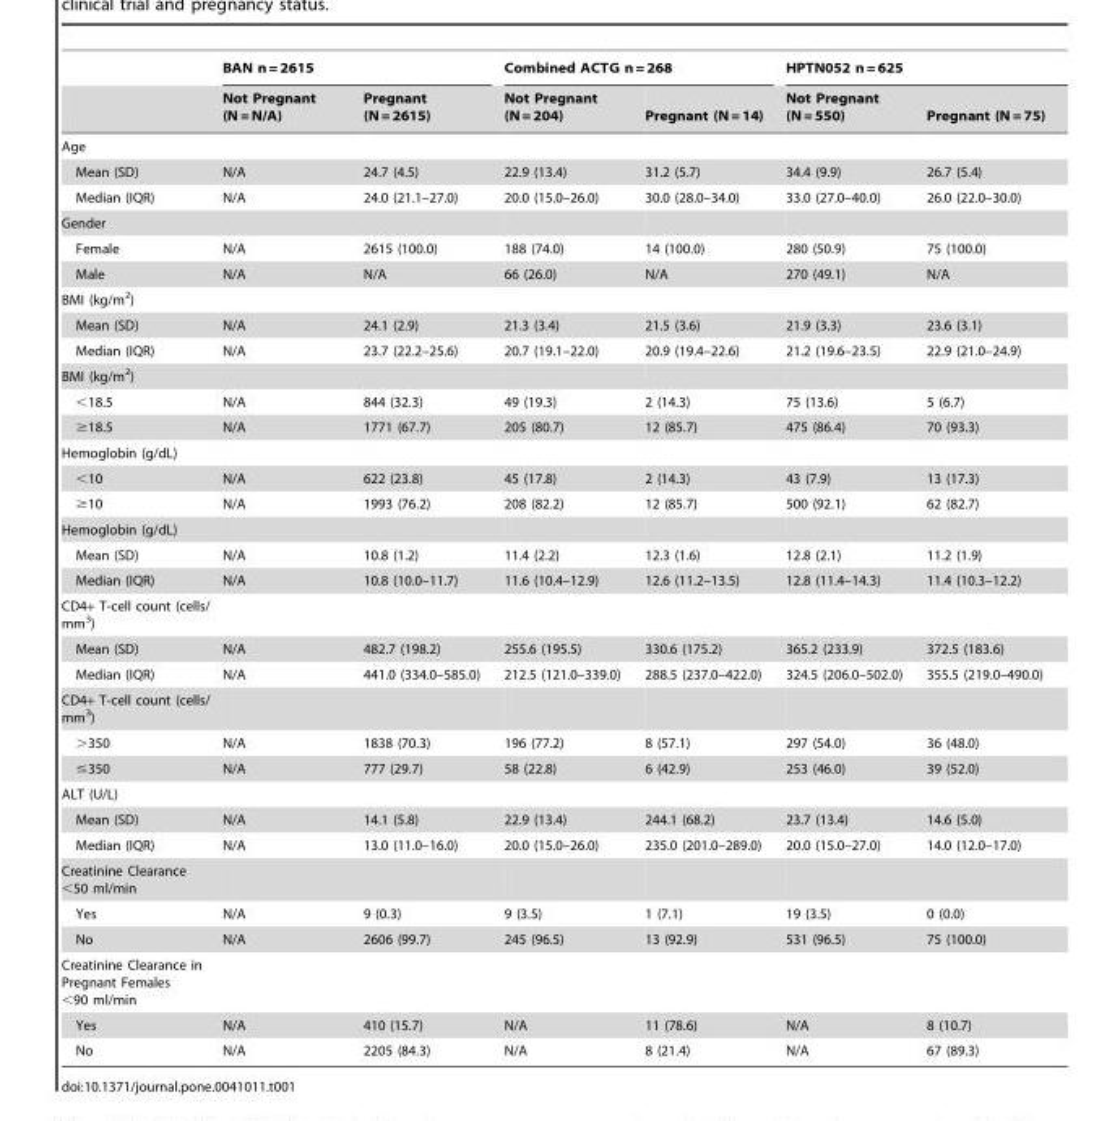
<table><thead><tr><td rowspan="2"></td><td colspan="2">BAN n = 2615</td><td colspan="2">Combined ACTG n = 268</td><td colspan="2">HPTN052 n = 625</td></tr><tr><td>Not Pregnant (N = N/A)</td><td>Pregnant (N = 2615)</td><td>Not Pregnant (N = 204)</td><td>Pregnant (N = 14)</td><td>Not Pregnant (N = 550)</td><td>Pregnant (N = 75)</td></tr></thead><tbody><tr><td colspan="7">Age</td></tr><tr><td>Mean (SD)</td><td>N/A</td><td>24.7 (4.5)</td><td>22.9 (13.4)</td><td>31.2 (5.7)</td><td>34.4 (9.9)</td><td>26.7 (5.4)</td></tr><tr><td>Median (IQR)</td><td>N/A</td><td>24.0 (21.1–27.0)</td><td>20.0 (15.0–26.0)</td><td>30.0 (28.0–34.0)</td><td>33.0 (27.0–40.0)</td><td>26.0 (22.0–30.0)</td></tr><tr><td colspan="7">Gender</td></tr><tr><td>Female</td><td>N/A</td><td>2615 (100.0)</td><td>188 (74.0)</td><td>14 (100.0)</td><td>280 (50.9)</td><td>75 (100.0)</td></tr><tr><td>Male</td><td>N/A</td><td>N/A</td><td>66 (26.0)</td><td>N/A</td><td>270 (49.1)</td><td>N/A</td></tr><tr><td colspan="7">BMI (kg/m<sup>2</sup>)</td></tr><tr><td>Mean (SD)</td><td>N/A</td><td>24.1 (2.9)</td><td>21.3 (3.4)</td><td>21.5 (3.6)</td><td>21.9 (3.3)</td><td>23.6 (3.1)</td></tr><tr><td>Median (IQR)</td><td>N/A</td><td>23.7 (22.2–25.6)</td><td>20.7 (19.1–22.0)</td><td>20.9 (19.4–22.6)</td><td>21.2 (19.6–23.5)</td><td>22.9 (21.0–24.9)</td></tr><tr><td colspan="7">BMI (kg/m<sup>2</sup>)</td></tr><tr><td>&lt;18.5</td><td>N/A</td><td>844 (32.3)</td><td>49 (19.3)</td><td>2 (14.3)</td><td>75 (13.6)</td><td>5 (6.7)</td></tr><tr><td>≥18.5</td><td>N/A</td><td>1771 (67.7)</td><td>205 (80.7)</td><td>12 (85.7)</td><td>475 (86.4)</td><td>70 (93.3)</td></tr><tr><td colspan="7">Hemoglobin (g/dL)</td></tr><tr><td>&lt;10</td><td>N/A</td><td>622 (23.8)</td><td>45 (17.8)</td><td>2 (14.3)</td><td>43 (7.9)</td><td>13 (17.3)</td></tr><tr><td>≥10</td><td>N/A</td><td>1993 (76.2)</td><td>208 (82.2)</td><td>12 (85.7)</td><td>500 (92.1)</td><td>62 (82.7)</td></tr><tr><td colspan="7">Hemoglobin (g/dL)</td></tr><tr><td>Mean (SD)</td><td>N/A</td><td>10.8 (1.2)</td><td>11.4 (2.2)</td><td>12.3 (1.6)</td><td>12.8 (2.1)</td><td>11.2 (1.9)</td></tr><tr><td>Median (IQR)</td><td>N/A</td><td>10.8 (10.0–11.7)</td><td>11.6 (10.4–12.9)</td><td>12.6 (11.2–13.5)</td><td>12.8 (11.4–14.3)</td><td>11.4 (10.3–12.2)</td></tr><tr><td colspan="7">CD4+ T-cell count (cells/ mm<sup>3</sup>)</td></tr><tr><td>Mean (SD)</td><td>N/A</td><td>482.7 (198.2)</td><td>255.6 (195.5)</td><td>330.6 (175.2)</td><td>365.2 (233.9)</td><td>372.5 (183.6)</td></tr><tr><td>Median (IQR)</td><td>N/A</td><td>441.0 (334.0–585.0)</td><td>212.5 (121.0–339.0)</td><td>288.5 (237.0–422.0)</td><td>324.5 (206.0–502.0)</td><td>355.5 (219.0–490.0)</td></tr><tr><td colspan="7">CD4+ T-cell count (cells/ mm<sup>3</sup>)</td></tr><tr><td>&gt;350</td><td>N/A</td><td>1838 (70.3)</td><td>196 (77.2)</td><td>8 (57.1)</td><td>297 (54.0)</td><td>36 (48.0)</td></tr><tr><td>≤350</td><td>N/A</td><td>777 (29.7)</td><td>58 (22.8)</td><td>6 (42.9)</td><td>253 (46.0)</td><td>39 (52.0)</td></tr><tr><td colspan="7">ALT (U/L)</td></tr><tr><td>Mean (SD)</td><td>N/A</td><td>14.1 (5.8)</td><td>22.9 (13.4)</td><td>244.1 (68.2)</td><td>23.7 (13.4)</td><td>14.6 (5.0)</td></tr><tr><td>Median (IQR)</td><td>N/A</td><td>13.0 (11.0–16.0)</td><td>20.0 (15.0–26.0)</td><td>235.0 (201.0–289.0)</td><td>20.0 (15.0–27.0)</td><td>14.0 (12.0–17.0)</td></tr><tr><td colspan="7">Creatinine Clearance &lt;50 ml/min</td></tr><tr><td>Yes</td><td>N/A</td><td>9 (0.3)</td><td>9 (3.5)</td><td>1 (7.1)</td><td>19 (3.5)</td><td>0 (0.0)</td></tr><tr><td>No</td><td>N/A</td><td>2606 (99.7)</td><td>245 (96.5)</td><td>13 (92.9)</td><td>531 (96.5)</td><td>75 (100.0)</td></tr><tr><td colspan="7">Creatinine Clearance in Pregnant Females &lt;90 ml/min</td></tr><tr><td>Yes</td><td>N/A</td><td>410 (15.7)</td><td>N/A</td><td>11 (78.6)</td><td>N/A</td><td>8 (10.7)</td></tr><tr><td>No</td><td>N/A</td><td>2205 (84.3)</td><td>N/A</td><td>8 (21.4)</td><td>N/A</td><td>67 (89.3)</td></tr></tbody></table>